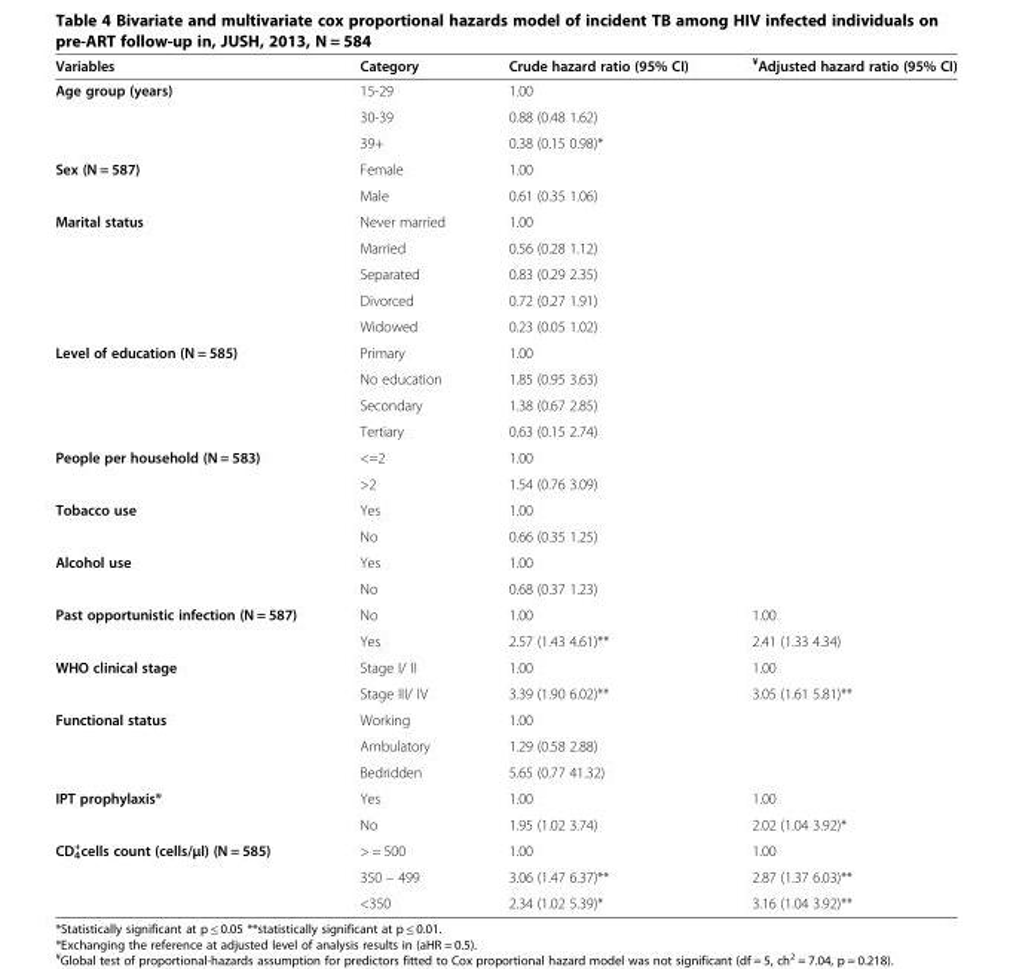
<table><thead><tr><td>Variables</td><td>Category</td><td>Crude hazard ratio (95% CI)</td><td><sup>¥</sup>Adjusted hazard ratio (95% CI)</td></tr></thead><tbody><tr><td rowspan="3">Age group (years)</td><td>15-29</td><td>1.00</td><td></td></tr><tr><td>30-39</td><td>0.88 (0.48 1.62)</td><td></td></tr><tr><td>39+</td><td>0.38 (0.15 0.98)*</td><td></td></tr><tr><td rowspan="2">Sex (N = 587)</td><td>Female</td><td>1.00</td><td></td></tr><tr><td>Male</td><td>0.61 (0.35 1.06)</td><td></td></tr><tr><td rowspan="5">Marital status</td><td>Never married</td><td>1.00</td><td></td></tr><tr><td>Married</td><td>0.56 (0.28 1.12)</td><td></td></tr><tr><td>Separated</td><td>0.83 (0.29 2.35)</td><td></td></tr><tr><td>Divorced</td><td>0.72 (0.27 1.91)</td><td></td></tr><tr><td>Widowed</td><td>0.23 (0.05 1.02)</td><td></td></tr><tr><td rowspan="4">Level of education (N = 585)</td><td>Primary</td><td>1.00</td><td></td></tr><tr><td>No education</td><td>1.85 (0.95 3.63)</td><td></td></tr><tr><td>Secondary</td><td>1.38 (0.67 2.85)</td><td></td></tr><tr><td>Tertiary</td><td>0.63 (0.15 2.74)</td><td></td></tr><tr><td rowspan="2">People per household (N = 583)</td><td>&lt;=2</td><td>1.00</td><td></td></tr><tr><td>&gt;2</td><td>1.54 (0.76 3.09)</td><td></td></tr><tr><td rowspan="2">Tobacco use</td><td>Yes</td><td>1.00</td><td></td></tr><tr><td>No</td><td>0.66 (0.35 1.25)</td><td></td></tr><tr><td rowspan="2">Alcohol use</td><td>Yes</td><td>1.00</td><td></td></tr><tr><td>No</td><td>0.68 (0.37 1.23)</td><td></td></tr><tr><td rowspan="2">Past opportunistic infection (N = 587)</td><td>No</td><td>1.00</td><td>1.00</td></tr><tr><td>Yes</td><td>2.57 (1.43 4.61)**</td><td>2.41 (1.33 4.34)</td></tr><tr><td rowspan="2">WHO clinical stage</td><td>Stage I/ II</td><td>1.00</td><td>1.00</td></tr><tr><td>Stage III/ IV</td><td>3.39 (1.90 6.02)**</td><td>3.05 (1.61 5.81)**</td></tr><tr><td rowspan="3">Functional status</td><td>Working</td><td>1.00</td><td></td></tr><tr><td>Ambulatory</td><td>1.29 (0.58 2.88)</td><td></td></tr><tr><td>Bedridden</td><td>5.65 (0.77 41.32)</td><td></td></tr><tr><td rowspan="2">IPT prophylaxis®</td><td>Yes</td><td>1.00</td><td>1.00</td></tr><tr><td>No</td><td>1.95 (1.02 3.74)</td><td>2.02 (1.04 3.92)*</td></tr><tr><td rowspan="3">CD<sub>4</sub> <sup>+</sup>cells count (cells/μl) (N = 585)</td><td>&gt; = 500</td><td>1.00</td><td>1.00</td></tr><tr><td>350 – 499</td><td>3.06 (1.47 6.37)**</td><td>2.87 (1.37 6.03)**</td></tr><tr><td>&lt;350</td><td>2.34 (1.02 5.39)*</td><td>3.16 (1.04 3.92)**</td></tr></tbody></table>